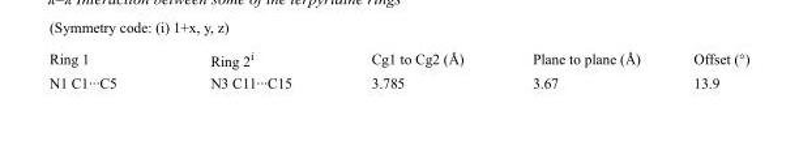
<table><tbody><tr><td>Ring 1</td><td>Ring 2<sup>i</sup></td><td>Cg1 to Cg2 (Å)</td><td>Plane to plane (Å)</td><td>Offset (°)</td></tr><tr><td>N1 C1···C5</td><td>N3 C11···C15</td><td>3.785</td><td>3.67</td><td>13.9</td></tr></tbody></table>